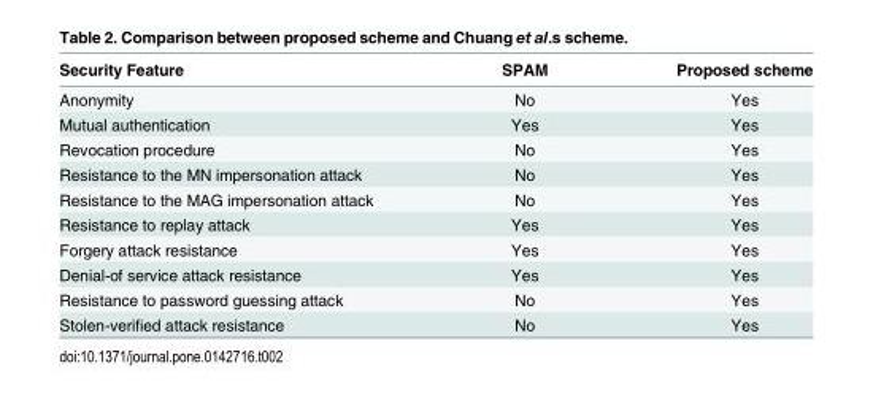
<table><thead><tr><td>Security Feature</td><td>SPAM</td><td>Proposed scheme</td></tr></thead><tbody><tr><td>Anonymity</td><td>No</td><td>Yes</td></tr><tr><td>Mutual authentication</td><td>Yes</td><td>Yes</td></tr><tr><td>Revocation procedure</td><td>No</td><td>Yes</td></tr><tr><td>Resistance to the MN impersonation attack</td><td>No</td><td>Yes</td></tr><tr><td>Resistance to the MAG impersonation attack</td><td>No</td><td>Yes</td></tr><tr><td>Resistance to replay attack</td><td>Yes</td><td>Yes</td></tr><tr><td>Forgery attack resistance</td><td>Yes</td><td>Yes</td></tr><tr><td>Denial-of service attack resistance</td><td>Yes</td><td>Yes</td></tr><tr><td>Resistance to password guessing attack</td><td>No</td><td>Yes</td></tr><tr><td>Stolen-verified attack resistance</td><td>No</td><td>Yes</td></tr></tbody></table>